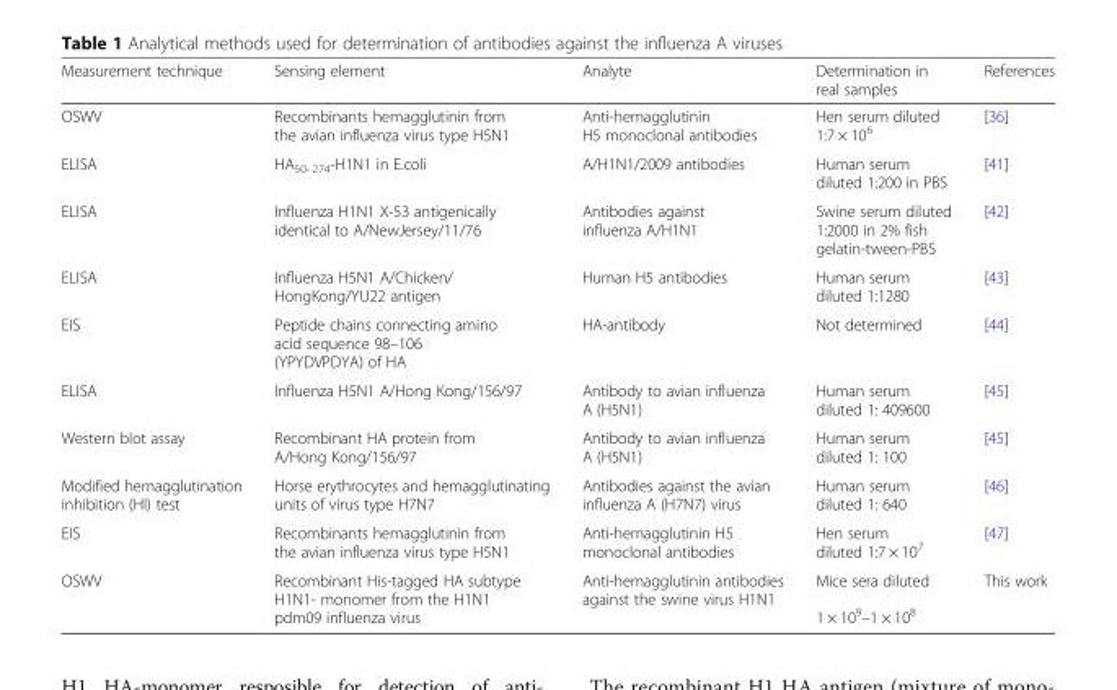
<table><thead><tr><td>Measurement technique</td><td>Sensing element</td><td>Analyte</td><td>Determination in real samples</td><td>References</td></tr></thead><tbody><tr><td>OSWV</td><td>Recombinants hemagglutinin from the avian influenza virus type H5N1</td><td>Anti-hemagglutinin H5 monoclonal antibodies</td><td>Hen serum diluted 1:7 × 10<sup>6</sup></td><td>[36]</td></tr><tr><td>ELISA</td><td>HA<sub>50–274</sub>-H1N1 in E.coli</td><td>A/H1N1/2009 antibodies</td><td>Human serum diluted 1:200 in PBS</td><td>[41]</td></tr><tr><td>ELISA</td><td>Influenza H1N1 X-53 antigenically identical to A/NewJersey/11/76</td><td>Antibodies against influenza A/H1N1</td><td>Swine serum diluted 1:2000 in 2% fish gelatin-tween-PBS</td><td>[42]</td></tr><tr><td>ELISA</td><td>Influenza H5N1 A/Chicken/ HongKong/YU22 antigen</td><td>Human H5 antibodies</td><td>Human serum diluted 1:1280</td><td>[43]</td></tr><tr><td>EIS</td><td>Peptide chains connecting amino acid sequence 98–106 (YPYDVPDYA) of HA</td><td>HA-antibody</td><td>Not determined</td><td>[44]</td></tr><tr><td>ELISA</td><td>Influenza H5N1 A/Hong Kong/156/97</td><td>Antibody to avian influenza A (H5N1)</td><td>Human serum diluted 1: 409600</td><td>[45]</td></tr><tr><td>Western blot assay</td><td>Recombinant HA protein from A/Hong Kong/156/97</td><td>Antibody to avian influenza A (H5N1)</td><td>Human serum diluted 1: 100</td><td>[45]</td></tr><tr><td>Modified hemagglutination inhibition (HI) test</td><td>Horse erythrocytes and hemagglutinating units of virus type H7N7</td><td>Antibodies against the avian influenza A (H7N7) virus</td><td>Human serum diluted 1: 640</td><td>[46]</td></tr><tr><td>EIS</td><td>Recombinants hemagglutinin from the avian influenza virus type H5N1</td><td>Anti-hemagglutinin H5 monoclonal antibodies</td><td>Hen serum diluted 1:7 × 10<sup>7</sup></td><td>[47]</td></tr><tr><td>OSWV</td><td>Recombinant His-tagged HA subtype H1N1- monomer from the H1N1 pdm09 influenza virus</td><td>Anti-hemagglutinin antibodies against the swine virus H1N1</td><td>Mice sera diluted 1 × 10<sup>9</sup>–1 × 10<sup>8</sup></td><td>This work</td></tr></tbody></table>